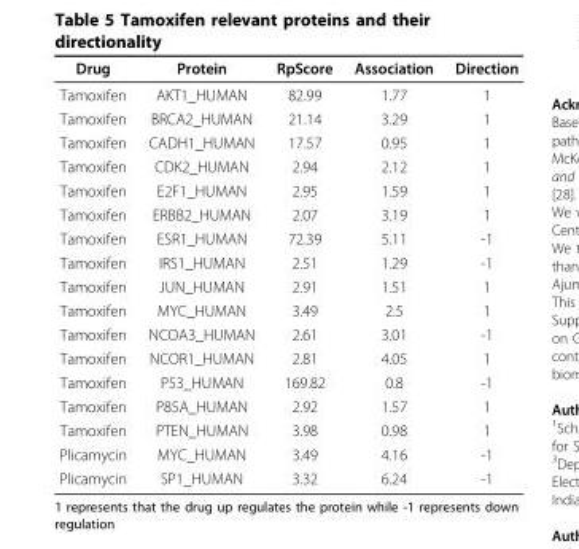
<table><thead><tr><td>Drug</td><td>Protein</td><td>RpScore</td><td>Association</td><td>Direction</td></tr></thead><tbody><tr><td>Tamoxifen</td><td>AKT1_HUMAN</td><td>82.99</td><td>1.77</td><td>1</td></tr><tr><td>Tamoxifen</td><td>BRCA2_HUMAN</td><td>21.14</td><td>3.29</td><td>1</td></tr><tr><td>Tamoxifen</td><td>CADH1_HUMAN</td><td>17.57</td><td>0.95</td><td>1</td></tr><tr><td>Tamoxifen</td><td>CDK2_HUMAN</td><td>2.94</td><td>2.12</td><td>1</td></tr><tr><td>Tamoxifen</td><td>E2F1_HUMAN</td><td>2.95</td><td>1.59</td><td>1</td></tr><tr><td>Tamoxifen</td><td>ERBB2_HUMAN</td><td>2.07</td><td>3.19</td><td>1</td></tr><tr><td>Tamoxifen</td><td>ESR1_HUMAN</td><td>72.39</td><td>5.11</td><td>-1</td></tr><tr><td>Tamoxifen</td><td>IRS1_HUMAN</td><td>2.51</td><td>1.29</td><td>-1</td></tr><tr><td>Tamoxifen</td><td>JUN_HUMAN</td><td>2.91</td><td>1.51</td><td>1</td></tr><tr><td>Tamoxifen</td><td>MYC_HUMAN</td><td>3.49</td><td>2.5</td><td>1</td></tr><tr><td>Tamoxifen</td><td>NCOA3_HUMAN</td><td>2.61</td><td>3.01</td><td>-1</td></tr><tr><td>Tamoxifen</td><td>NCOR1_HUMAN</td><td>2.81</td><td>4.05</td><td>1</td></tr><tr><td>Tamoxifen</td><td>P53_HUMAN</td><td>169.82</td><td>0.8</td><td>-1</td></tr><tr><td>Tamoxifen</td><td>P85A_HUMAN</td><td>2.92</td><td>1.57</td><td>1</td></tr><tr><td>Tamoxifen</td><td>PTEN_HUMAN</td><td>3.98</td><td>0.98</td><td>1</td></tr><tr><td>Plicamycin</td><td>MYC_HUMAN</td><td>3.49</td><td>4.16</td><td>-1</td></tr><tr><td>Plicamycin</td><td>SP1_HUMAN</td><td>3.32</td><td>6.24</td><td>-1</td></tr></tbody></table>